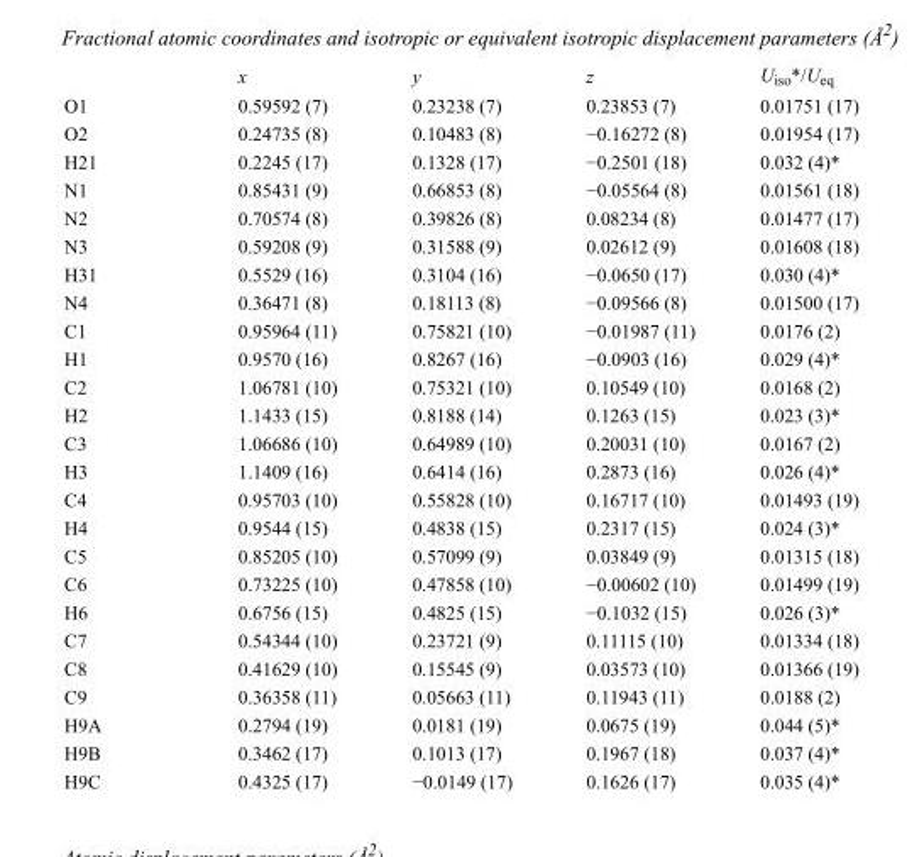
<table><thead><tr><td></td><td>x</td><td>y</td><td>z</td><td>U<sub>iso</sub>*/U<sub>eq</sub></td></tr></thead><tbody><tr><td>O1</td><td>0.59592 (7)</td><td>0.23238 (7)</td><td>0.23853 (7)</td><td>0.01751 (17)</td></tr><tr><td>O2</td><td>0.24735 (8)</td><td>0.10483 (8)</td><td>−0.16272 (8)</td><td>0.01954 (17)</td></tr><tr><td>H21</td><td>0.2245 (17)</td><td>0.1328 (17)</td><td>−0.2501 (18)</td><td>0.032 (4)*</td></tr><tr><td>N1</td><td>0.85431 (9)</td><td>0.66853 (8)</td><td>−0.05564 (8)</td><td>0.01561 (18)</td></tr><tr><td>N2</td><td>0.70574 (8)</td><td>0.39826 (8)</td><td>0.08234 (8)</td><td>0.01477 (17)</td></tr><tr><td>N3</td><td>0.59208 (9)</td><td>0.31588 (9)</td><td>0.02612 (9)</td><td>0.01608 (18)</td></tr><tr><td>H31</td><td>0.5529 (16)</td><td>0.3104 (16)</td><td>−0.0650 (17)</td><td>0.030 (4)*</td></tr><tr><td>N4</td><td>0.36471 (8)</td><td>0.18113 (8)</td><td>−0.09566 (8)</td><td>0.01500 (17)</td></tr><tr><td>C1</td><td>0.95964 (11)</td><td>0.75821 (10)</td><td>−0.01987 (11)</td><td>0.0176 (2)</td></tr><tr><td>H1</td><td>0.9570 (16)</td><td>0.8267 (16)</td><td>−0.0903 (16)</td><td>0.029 (4)*</td></tr><tr><td>C2</td><td>1.06781 (10)</td><td>0.75321 (10)</td><td>0.10549 (10)</td><td>0.0168 (2)</td></tr><tr><td>H2</td><td>1.1433 (15)</td><td>0.8188 (14)</td><td>0.1263 (15)</td><td>0.023 (3)*</td></tr><tr><td>C3</td><td>1.06686 (10)</td><td>0.64989 (10)</td><td>0.20031 (10)</td><td>0.0167 (2)</td></tr><tr><td>H3</td><td>1.1409 (16)</td><td>0.6414 (16)</td><td>0.2873 (16)</td><td>0.026 (4)*</td></tr><tr><td>C4</td><td>0.95703 (10)</td><td>0.55828 (10)</td><td>0.16717 (10)</td><td>0.01493 (19)</td></tr><tr><td>H4</td><td>0.9544 (15)</td><td>0.4838 (15)</td><td>0.2317 (15)</td><td>0.024 (3)*</td></tr><tr><td>C5</td><td>0.85205 (10)</td><td>0.57099 (9)</td><td>0.03849 (9)</td><td>0.01315 (18)</td></tr><tr><td>C6</td><td>0.73225 (10)</td><td>0.47858 (10)</td><td>−0.00602 (10)</td><td>0.01499 (19)</td></tr><tr><td>H6</td><td>0.6756 (15)</td><td>0.4825 (15)</td><td>−0.1032 (15)</td><td>0.026 (3)*</td></tr><tr><td>C7</td><td>0.54344 (10)</td><td>0.23721 (9)</td><td>0.11115 (10)</td><td>0.01334 (18)</td></tr><tr><td>C8</td><td>0.41629 (10)</td><td>0.15545 (9)</td><td>0.03573 (10)</td><td>0.01366 (19)</td></tr><tr><td>C9</td><td>0.36358 (11)</td><td>0.05663 (11)</td><td>0.11943 (11)</td><td>0.0188 (2)</td></tr><tr><td>H9A</td><td>0.2794 (19)</td><td>0.0181 (19)</td><td>0.0675 (19)</td><td>0.044 (5)*</td></tr><tr><td>H9B</td><td>0.3462 (17)</td><td>0.1013 (17)</td><td>0.1967 (18)</td><td>0.037 (4)*</td></tr><tr><td>H9C</td><td>0.4325 (17)</td><td>−0.0149 (17)</td><td>0.1626 (17)</td><td>0.035 (4)*</td></tr></tbody></table>